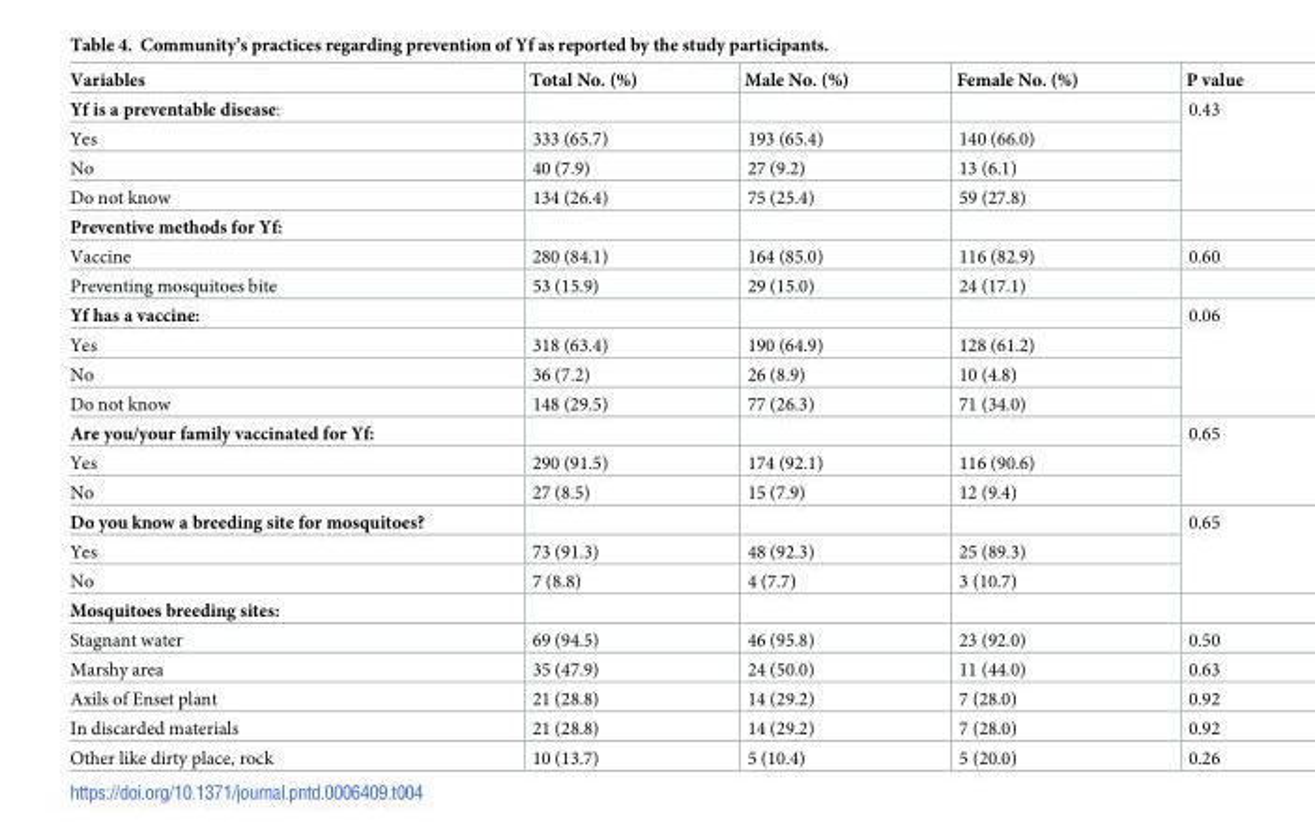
<table><thead><tr><td>Variables</td><td>Total No. (%)</td><td>Male No. (%)</td><td>Female No. (%)</td><td>P value</td></tr></thead><tbody><tr><td colspan="4">Yf is a preventable disease:</td><td rowspan="4">0.43</td></tr><tr><td>Yes</td><td>333 (65.7)</td><td>193 (65.4)</td><td>140 (66.0)</td></tr><tr><td>No</td><td>40 (7.9)</td><td>27 (9.2)</td><td>13 (6.1)</td></tr><tr><td>Do not know</td><td>134 (26.4)</td><td>75 (25.4)</td><td>59 (27.8)</td></tr><tr><td colspan="5">Preventive methods for Yf:</td></tr><tr><td>Vaccine</td><td>280 (84.1)</td><td>164 (85.0)</td><td>116 (82.9)</td><td>0.60</td></tr><tr><td>Preventing mosquitoes bite</td><td>53 (15.9)</td><td>29 (15.0)</td><td>24 (17.1)</td><td></td></tr><tr><td colspan="4">Yf has a vaccine:</td><td rowspan="4">0.06</td></tr><tr><td>Yes</td><td>318 (63.4)</td><td>190 (64.9)</td><td>128 (61.2)</td></tr><tr><td>No</td><td>36 (7.2)</td><td>26 (8.9)</td><td>10 (4.8)</td></tr><tr><td>Do not know</td><td>148 (29.5)</td><td>77 (26.3)</td><td>71 (34.0)</td></tr><tr><td colspan="4">Are you/your family vaccinated for Yf:</td><td rowspan="3">0.65</td></tr><tr><td>Yes</td><td>290 (91.5)</td><td>174 (92.1)</td><td>116 (90.6)</td></tr><tr><td>No</td><td>27 (8.5)</td><td>15 (7.9)</td><td>12 (9.4)</td></tr><tr><td colspan="4">Do you know a breeding site for mosquitoes?</td><td rowspan="3">0.65</td></tr><tr><td>Yes</td><td>73 (91.3)</td><td>48 (92.3)</td><td>25 (89.3)</td></tr><tr><td>No</td><td>7 (8.8)</td><td>4 (7.7)</td><td>3 (10.7)</td></tr><tr><td colspan="5">Mosquitoes breeding sites:</td></tr><tr><td>Stagnant water</td><td>69 (94.5)</td><td>46 (95.8)</td><td>23 (92.0)</td><td>0.50</td></tr><tr><td>Marshy area</td><td>35 (47.9)</td><td>24 (50.0)</td><td>11 (44.0)</td><td>0.63</td></tr><tr><td>Axils of Enset plant</td><td>21 (28.8)</td><td>14 (29.2)</td><td>7 (28.0)</td><td>0.92</td></tr><tr><td>In discarded materials</td><td>21 (28.8)</td><td>14 (29.2)</td><td>7 (28.0)</td><td>0.92</td></tr><tr><td>Other like dirty place, rock</td><td>10 (13.7)</td><td>5 (10.4)</td><td>5 (20.0)</td><td>0.26</td></tr></tbody></table>